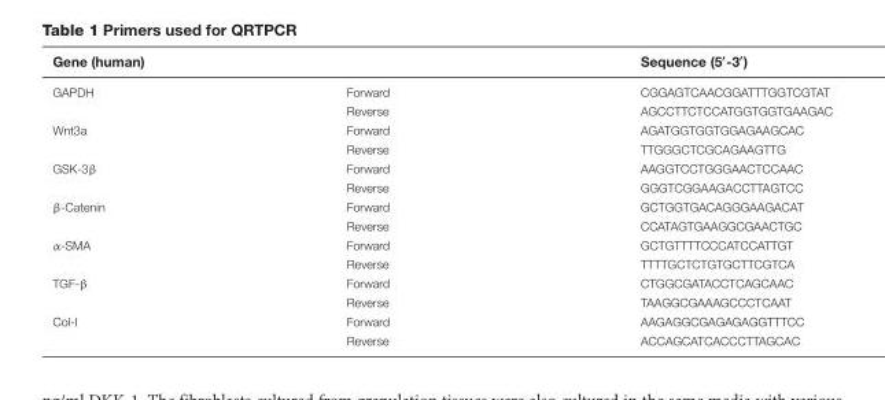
<table><thead><tr><td>Gene (human)</td><td></td><td>Sequence (5′-3′)</td></tr></thead><tbody><tr><td rowspan="2">GAPDH</td><td>Forward</td><td>CGGAGTCAACGGATTTGGTCGTAT</td></tr><tr><td>Reverse</td><td>AGCCTTCTCCATGGTGGTGAAGAC</td></tr><tr><td rowspan="2">Wnt3a</td><td>Forward</td><td>AGATGGTGGTGGAGAAGCAC</td></tr><tr><td>Reverse</td><td>TTGGGCTCGCAGAAGTTG</td></tr><tr><td rowspan="2">GSK-3β</td><td>Forward</td><td>AAGGTCCTGGGAACTCCAAC</td></tr><tr><td>Reverse</td><td>GGGTCGGAAGACCTTAGTCC</td></tr><tr><td rowspan="2">β-Catenin</td><td>Forward</td><td>GCTGGTGACAGGGAAGACAT</td></tr><tr><td>Reverse</td><td>CCATAGTGAAGGCGAACTGC</td></tr><tr><td rowspan="2">α-SMA</td><td>Forward</td><td>GCTGTTTTCCCATCCATTGT</td></tr><tr><td>Reverse</td><td>TTTTGCTCTGTGCTTCGTCA</td></tr><tr><td rowspan="2">TGF-β</td><td>Forward</td><td>CTGGCGATACCTCAGCAAC</td></tr><tr><td>Reverse</td><td>TAAGGCGAAAGCCCTCAAT</td></tr><tr><td rowspan="2">Col-I</td><td>Forward</td><td>AAGAGGCGAGAGAGGTTTCC</td></tr><tr><td>Reverse</td><td>ACCAGCATCACCCTTAGCAC</td></tr></tbody></table>